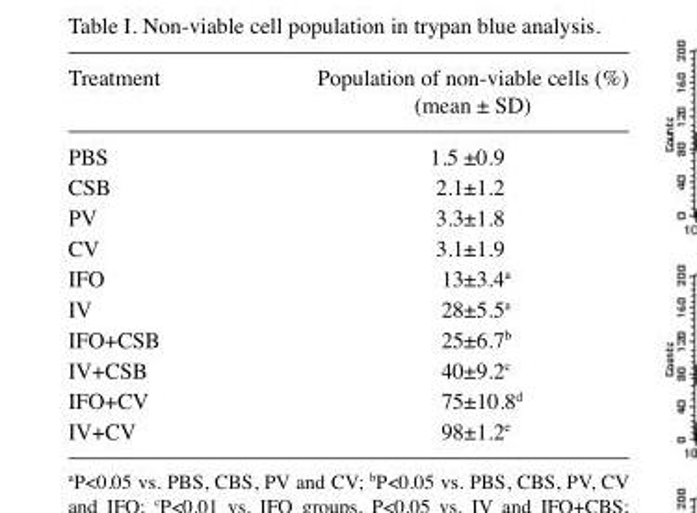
<table><thead><tr><td>Treatment</td><td>Population of non-viable cells (%) (mean ± SD)</td></tr></thead><tbody><tr><td>PBS</td><td>1.5 ±0.9</td></tr><tr><td>CSB</td><td>2.1±1.2</td></tr><tr><td>PV</td><td>3.3±1.8</td></tr><tr><td>CV</td><td>3.1±1.9</td></tr><tr><td>IFO</td><td>13±3.4<sup>a</sup></td></tr><tr><td>IV</td><td>28±5.5<sup>a</sup></td></tr><tr><td>IFO+CSB</td><td>25±6.7<sup>b</sup></td></tr><tr><td>IV+CSB</td><td>40±9.2<sup>c</sup></td></tr><tr><td>IFO+CV</td><td>75±10.8<sup>d</sup></td></tr><tr><td>IV+CV</td><td>98±1.2<sup>e</sup></td></tr></tbody></table>